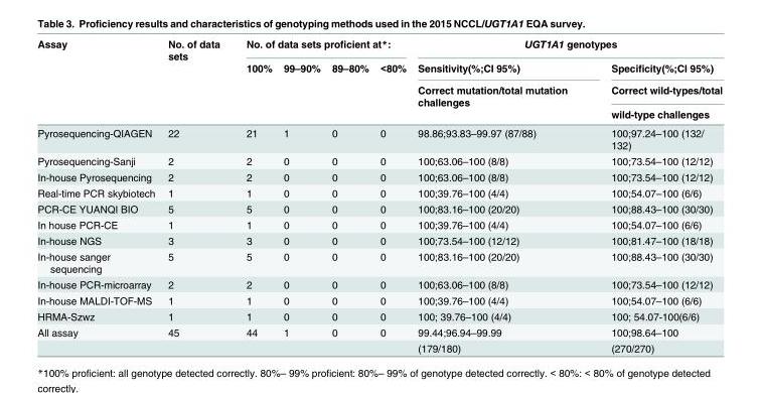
<table><thead><tr><td rowspan="4">Assay</td><td rowspan="4">No. of data sets</td><td colspan="4">No. of data sets proficient at*:</td><td colspan="2">UGT1A1 genotypes</td></tr><tr><td rowspan="3">100%</td><td rowspan="3">99–90%</td><td rowspan="3">89–80%</td><td rowspan="3">&lt;80%</td><td rowspan="3">Sensitivity(%;CI 95%) Correct mutation/total mutation challenges</td><td rowspan="3">Specificity(%;CI 95%) Correct wild-types/total wild-type challenges</td></tr><tr></tr><tr></tr></thead><tbody><tr><td>Pyrosequencing-QIAGEN</td><td>22</td><td>21</td><td>1</td><td>0</td><td>0</td><td>98.86;93.83–99.97 (87/88)</td><td>100;97.24–100 (132/ 132)</td></tr><tr><td>Pyrosequencing-Sanji</td><td>2</td><td>2</td><td>0</td><td>0</td><td>0</td><td>100;63.06–100 (8/8)</td><td>100;73.54–100 (12/12)</td></tr><tr><td>In-house Pyrosequencing</td><td>2</td><td>2</td><td>0</td><td>0</td><td>0</td><td>100;63.06–100 (8/8)</td><td>100;73.54–100 (12/12)</td></tr><tr><td>Real-time PCR skybiotech</td><td>1</td><td>1</td><td>0</td><td>0</td><td>0</td><td>100;39.76–100 (4/4)</td><td>100;54.07–100 (6/6)</td></tr><tr><td>PCR-CE YUANQI BIO</td><td>5</td><td>5</td><td>0</td><td>0</td><td>0</td><td>100;83.16–100 (20/20)</td><td>100;88.43–100 (30/30)</td></tr><tr><td>In house PCR-CE</td><td>1</td><td>1</td><td>0</td><td>0</td><td>0</td><td>100;39.76–100 (4/4)</td><td>100;54.07–100 (6/6)</td></tr><tr><td>In-house NGS</td><td>3</td><td>3</td><td>0</td><td>0</td><td>0</td><td>100;73.54–100 (12/12)</td><td>100;81.47–100 (18/18)</td></tr><tr><td>In-house sanger sequencing</td><td>5</td><td>5</td><td>0</td><td>0</td><td>0</td><td>100;83.16–100 (20/20)</td><td>100;88.43–100 (30/30)</td></tr><tr><td>In-house PCR-microarray</td><td>2</td><td>2</td><td>0</td><td>0</td><td>0</td><td>100;63.06–100 (8/8)</td><td>100;73.54–100 (12/12)</td></tr><tr><td>In-house MALDI-TOF-MS</td><td>1</td><td>1</td><td>0</td><td>0</td><td>0</td><td>100;39.76–100 (4/4)</td><td>100;54.07–100 (6/6)</td></tr><tr><td>HRMA-Szwz</td><td>1</td><td>1</td><td>0</td><td>0</td><td>0</td><td>100; 39.76–100 (4/4)</td><td>100; 54.07-100(6/6)</td></tr><tr><td rowspan="2">All assay</td><td>45</td><td>44</td><td>1</td><td>0</td><td>0</td><td>99.44;96.94–99.99</td><td>100;98.64–100</td></tr><tr><td></td><td></td><td></td><td></td><td></td><td>(179/180)</td><td>(270/270)</td></tr></tbody></table>